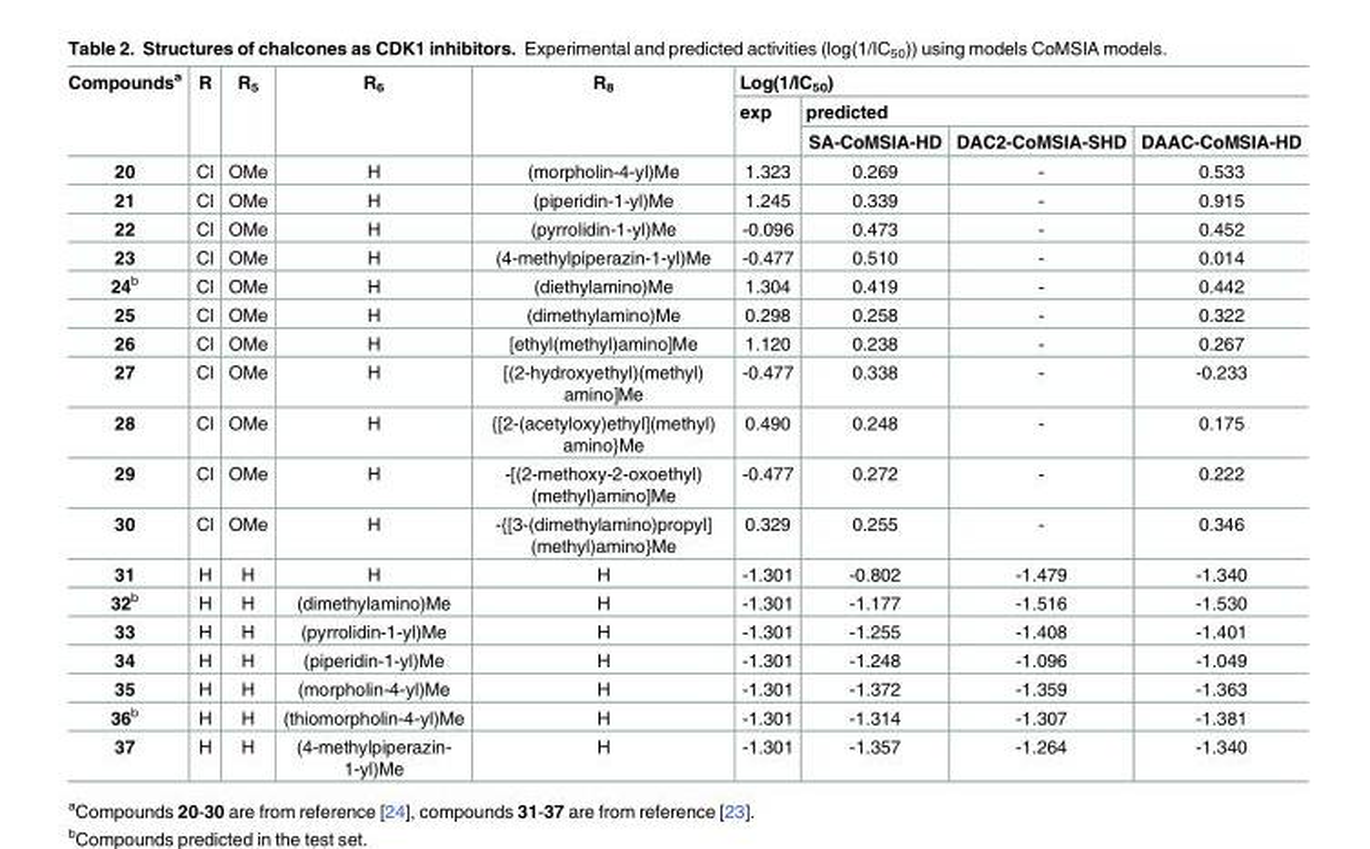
<table><thead><tr><td rowspan="3">Compounds<sup>a</sup></td><td rowspan="3">R</td><td rowspan="3">R<sub>5</sub></td><td rowspan="3">R<sub>6</sub></td><td rowspan="3">R<sub>8</sub></td><td colspan="4">Log(1/IC<sub>50</sub>)</td></tr><tr><td rowspan="2">exp</td><td colspan="3">predicted</td></tr><tr><td>SA-CoMSIA-HD</td><td>DAC2-CoMSIA-SHD</td><td>DAAC-CoMSIA-HD</td></tr></thead><tbody><tr><td>20</td><td>Cl</td><td>OMe</td><td>H</td><td>(morpholin-4-yl)Me</td><td>1.323</td><td>0.269</td><td>-</td><td>0.533</td></tr><tr><td>21</td><td>Cl</td><td>OMe</td><td>H</td><td>(piperidin-1-yl)Me</td><td>1.245</td><td>0.339</td><td>-</td><td>0.915</td></tr><tr><td>22</td><td>Cl</td><td>OMe</td><td>H</td><td>(pyrrolidin-1-yl)Me</td><td>-0.096</td><td>0.473</td><td>-</td><td>0.452</td></tr><tr><td>23</td><td>Cl</td><td>OMe</td><td>H</td><td>(4-methylpiperazin-1-yl)Me</td><td>-0.477</td><td>0.510</td><td>-</td><td>0.014</td></tr><tr><td>24<sup>b</sup></td><td>Cl</td><td>OMe</td><td>H</td><td>(diethylamino)Me</td><td>1.304</td><td>0.419</td><td>-</td><td>0.442</td></tr><tr><td>25</td><td>Cl</td><td>OMe</td><td>H</td><td>(dimethylamino)Me</td><td>0.298</td><td>0.258</td><td>-</td><td>0.322</td></tr><tr><td>26</td><td>Cl</td><td>OMe</td><td>H</td><td>[ethyl(methyl)amino]Me</td><td>1.120</td><td>0.238</td><td>-</td><td>0.267</td></tr><tr><td>27</td><td>Cl</td><td>OMe</td><td>H</td><td>[(2-hydroxyethyl)(methyl) amino]Me</td><td>-0.477</td><td>0.338</td><td>-</td><td>-0.233</td></tr><tr><td>28</td><td>Cl</td><td>OMe</td><td>H</td><td>{[2-(acetyloxy)ethyl](methyl) amino}Me</td><td>0.490</td><td>0.248</td><td>-</td><td>0.175</td></tr><tr><td>29</td><td>Cl</td><td>OMe</td><td>H</td><td>-[(2-methoxy-2-oxoethyl) (methyl)amino]Me</td><td>-0.477</td><td>0.272</td><td>-</td><td>0.222</td></tr><tr><td>30</td><td>Cl</td><td>OMe</td><td>H</td><td>-{[3-(dimethylamino)propyl] (methyl)amino}Me</td><td>0.329</td><td>0.255</td><td>-</td><td>0.346</td></tr><tr><td>31</td><td>H</td><td>H</td><td>H</td><td>H</td><td>-1.301</td><td>-0.802</td><td>-1.479</td><td>-1.340</td></tr><tr><td>32<sup>b</sup></td><td>H</td><td>H</td><td>(dimethylamino)Me</td><td>H</td><td>-1.301</td><td>-1.177</td><td>-1.516</td><td>-1.530</td></tr><tr><td>33</td><td>H</td><td>H</td><td>(pyrrolidin-1-yl)Me</td><td>H</td><td>-1.301</td><td>-1.255</td><td>-1.408</td><td>-1.401</td></tr><tr><td>34</td><td>H</td><td>H</td><td>(piperidin-1-yl)Me</td><td>H</td><td>-1.301</td><td>-1.248</td><td>-1.096</td><td>-1.049</td></tr><tr><td>35</td><td>H</td><td>H</td><td>(morpholin-4-yl)Me</td><td>H</td><td>-1.301</td><td>-1.372</td><td>-1.359</td><td>-1.363</td></tr><tr><td>36<sup>b</sup></td><td>H</td><td>H</td><td>(thiomorpholin-4-yl)Me</td><td>H</td><td>-1.301</td><td>-1.314</td><td>-1.307</td><td>-1.381</td></tr><tr><td>37</td><td>H</td><td>H</td><td>(4-methylpiperazin- 1-yl)Me</td><td>H</td><td>-1.301</td><td>-1.357</td><td>-1.264</td><td>-1.340</td></tr></tbody></table>